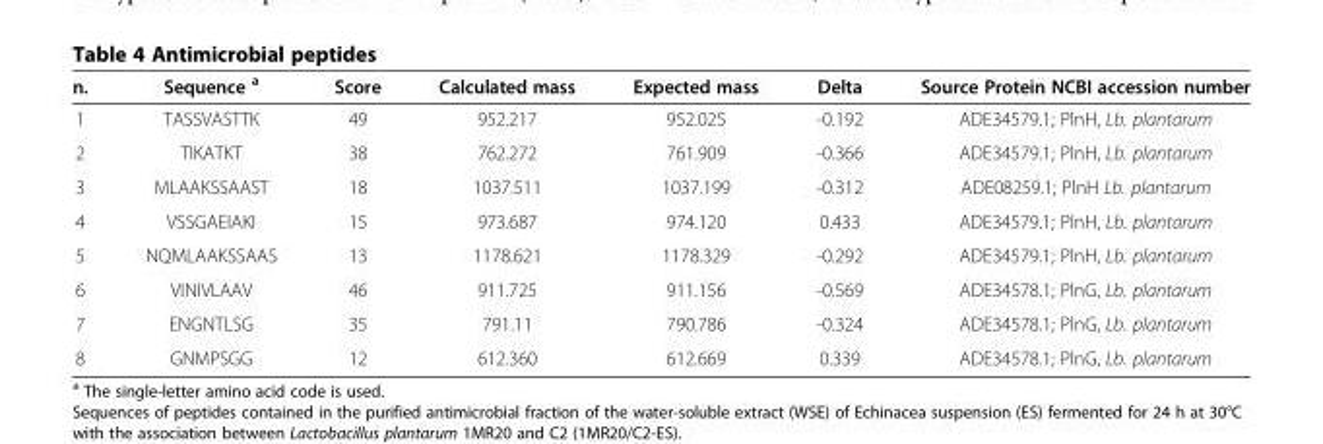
<table><thead><tr><td>n.</td><td>Sequence <sup>a</sup></td><td>Score</td><td>Calculated mass</td><td>Expected mass</td><td>Delta</td><td>Source Protein NCBI accession number</td></tr></thead><tbody><tr><td>1</td><td>TASSVASTTK</td><td>49</td><td>952.217</td><td>952.025</td><td>-0.192</td><td>ADE34579.1; PlnH, Lb. plantarum</td></tr><tr><td>2</td><td>TIKATKT</td><td>38</td><td>762.272</td><td>761.909</td><td>-0.366</td><td>ADE34579.1; PlnH, Lb. plantarum</td></tr><tr><td>3</td><td>MLAAKSSAAST</td><td>18</td><td>1037.511</td><td>1037.199</td><td>-0.312</td><td>ADE08259.1; PlnH Lb. plantarum</td></tr><tr><td>4</td><td>VSSGAEIAKI</td><td>15</td><td>973.687</td><td>974.120</td><td>0.433</td><td>ADE34579.1; PlnH, Lb. plantarum</td></tr><tr><td>5</td><td>NQMLAAKSSAAS</td><td>13</td><td>1178.621</td><td>1178.329</td><td>-0.292</td><td>ADE34579.1; PlnH, Lb. plantarum</td></tr><tr><td>6</td><td>VINIVLAAV</td><td>46</td><td>911.725</td><td>911.156</td><td>-0.569</td><td>ADE34578.1; PlnG, Lb. plantarum</td></tr><tr><td>7</td><td>ENGNTLSG</td><td>35</td><td>791.11</td><td>790.786</td><td>-0.324</td><td>ADE34578.1; PlnG, Lb. plantarum</td></tr><tr><td>8</td><td>GNMPSGG</td><td>12</td><td>612.360</td><td>612.669</td><td>0.339</td><td>ADE34578.1; PlnG, Lb. plantarum</td></tr></tbody></table>